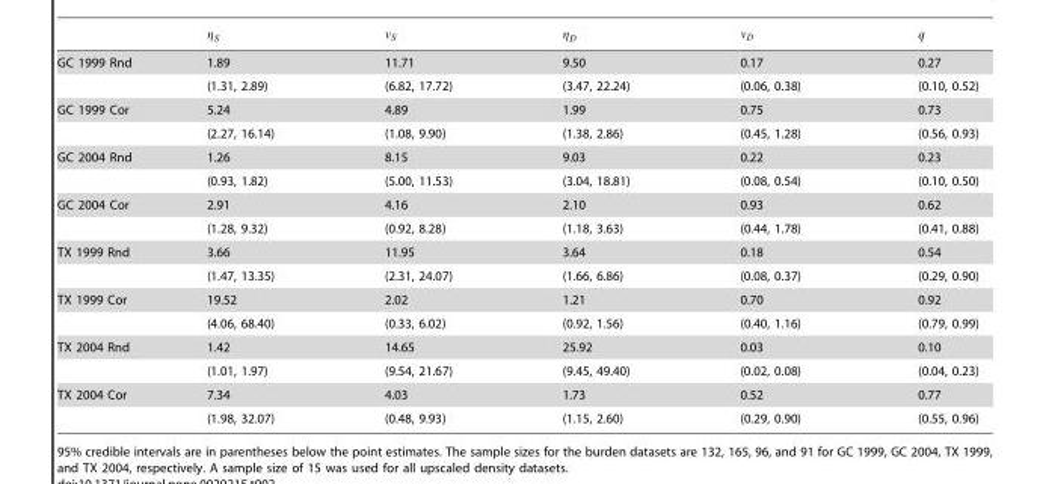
<table><tbody><tr><td rowspan="2">GC 1999 Rnd</td><td>1.89</td><td>11.71</td><td>9.50</td><td>0.17</td><td>0.27</td></tr><tr><td>(1.31, 2.89)</td><td>(6.82, 17.72)</td><td>(3.47, 22.24)</td><td>(0.06, 0.38)</td><td>(0.10, 0.52)</td></tr><tr><td rowspan="2">GC 1999 Cor</td><td>5.24</td><td>4.89</td><td>1.99</td><td>0.75</td><td>0.73</td></tr><tr><td>(2.27, 16.14)</td><td>(1.08, 9.90)</td><td>(1.38, 2.86)</td><td>(0.45, 1.28)</td><td>(0.56, 0.93)</td></tr><tr><td rowspan="2">GC 2004 Rnd</td><td>1.26</td><td>8.15</td><td>9.03</td><td>0.22</td><td>0.23</td></tr><tr><td>(0.93, 1.82)</td><td>(5.00, 11.53)</td><td>(3.04, 18.81)</td><td>(0.08, 0.54)</td><td>(0.10, 0.50)</td></tr><tr><td rowspan="2">GC 2004 Cor</td><td>2.91</td><td>4.16</td><td>2.10</td><td>0.93</td><td>0.62</td></tr><tr><td>(1.28, 9.32)</td><td>(0.92, 8.28)</td><td>(1.18, 3.63)</td><td>(0.44, 1.78)</td><td>(0.41, 0.88)</td></tr><tr><td rowspan="2">TX 1999 Rnd</td><td>3.66</td><td>11.95</td><td>3.64</td><td>0.18</td><td>0.54</td></tr><tr><td>(1.47, 13.35)</td><td>(2.31, 24.07)</td><td>(1.66, 6.86)</td><td>(0.08, 0.37)</td><td>(0.29, 0.90)</td></tr><tr><td rowspan="2">TX 1999 Cor</td><td>19.52</td><td>2.02</td><td>1.21</td><td>0.70</td><td>0.92</td></tr><tr><td>(4.06, 68.40)</td><td>(0.33, 6.02)</td><td>(0.92, 1.56)</td><td>(0.40, 1.16)</td><td>(0.79, 0.99)</td></tr><tr><td rowspan="2">TX 2004 Rnd</td><td>1.42</td><td>14.65</td><td>25.92</td><td>0.03</td><td>0.10</td></tr><tr><td>(1.01, 1.97)</td><td>(9.54, 21.67)</td><td>(9.45, 49.40)</td><td>(0.02, 0.08)</td><td>(0.04, 0.23)</td></tr><tr><td rowspan="2">TX 2004 Cor</td><td>7.34</td><td>4.03</td><td>1.73</td><td>0.52</td><td>0.77</td></tr><tr><td>(1.98, 32.07)</td><td>(0.48, 9.93)</td><td>(1.15, 2.60)</td><td>(0.29, 0.90)</td><td>(0.55, 0.96)</td></tr></tbody></table>